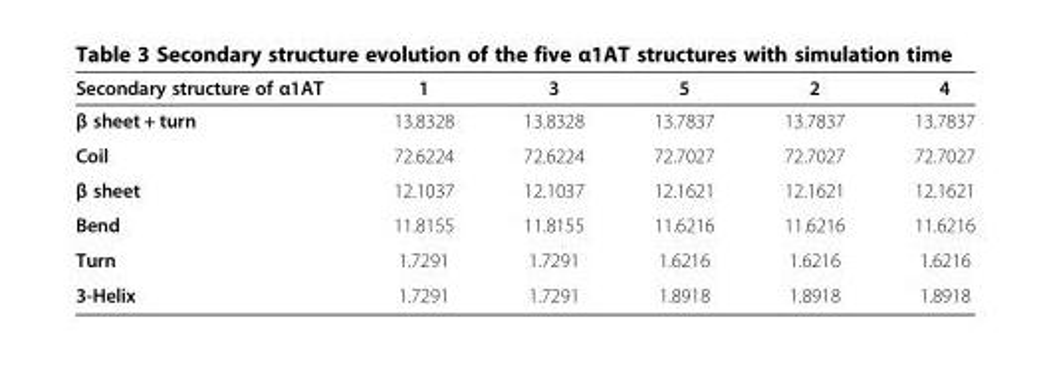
<table><thead><tr><td>Secondary structure of α1AT</td><td>1</td><td>3</td><td>5</td><td>2</td><td>4</td></tr></thead><tbody><tr><td>β sheet + turn</td><td>13.8328</td><td>13.8328</td><td>13.7837</td><td>13.7837</td><td>13.7837</td></tr><tr><td>Coil</td><td>72.6224</td><td>72.6224</td><td>72.7027</td><td>72.7027</td><td>72.7027</td></tr><tr><td>β sheet</td><td>12.1037</td><td>12.1037</td><td>12.1621</td><td>12.1621</td><td>12.1621</td></tr><tr><td>Bend</td><td>11.8155</td><td>11.8155</td><td>11.6216</td><td>11.6216</td><td>11.6216</td></tr><tr><td>Turn</td><td>1.7291</td><td>1.7291</td><td>1.6216</td><td>1.6216</td><td>1.6216</td></tr><tr><td>3-Helix</td><td>1.7291</td><td>1.7291</td><td>1.8918</td><td>1.8918</td><td>1.8918</td></tr></tbody></table>